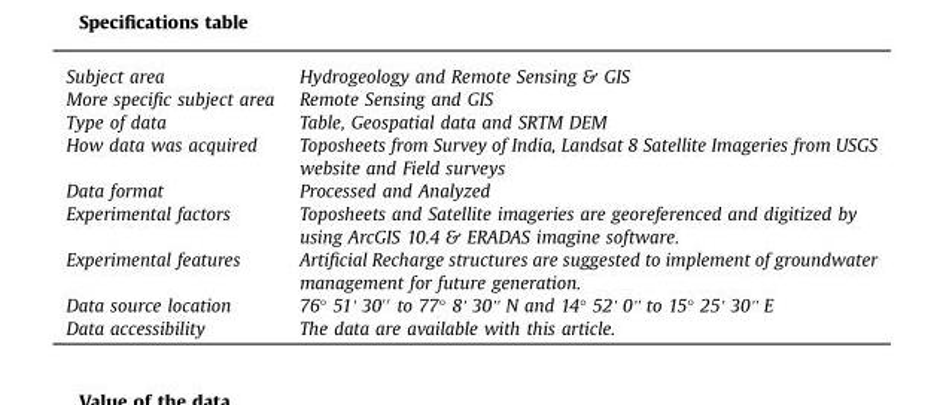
<table><tbody><tr><td>Subject area</td><td>Hydrogeology and Remote Sensing &amp; GIS</td></tr><tr><td>More specific subject area</td><td>Remote Sensing and GIS</td></tr><tr><td>Type of data</td><td>Table, Geospatial data and SRTM DEM</td></tr><tr><td>How data was acquired</td><td>Toposheets from Survey of India, Landsat 8 Satellite Imageries from USGS website and Field surveys</td></tr><tr><td>Data format</td><td>Processed and Analyzed</td></tr><tr><td>Experimental factors</td><td>Toposheets and Satellite imageries are georeferenced and digitized by using ArcGIS 10.4 &amp; ERADAS imagine software.</td></tr><tr><td>Experimental features</td><td>Artificial Recharge structures are suggested to implement of groundwater management for future generation.</td></tr><tr><td>Data source location</td><td>76° 51&#x27; 30′′ to 77° 8&#x27; 30&#x27;&#x27; N and 14° 52&#x27; 0&#x27;&#x27; to 15° 25&#x27; 30&#x27;&#x27; E</td></tr><tr><td>Data accessibility</td><td>The data are available with this article.</td></tr></tbody></table>